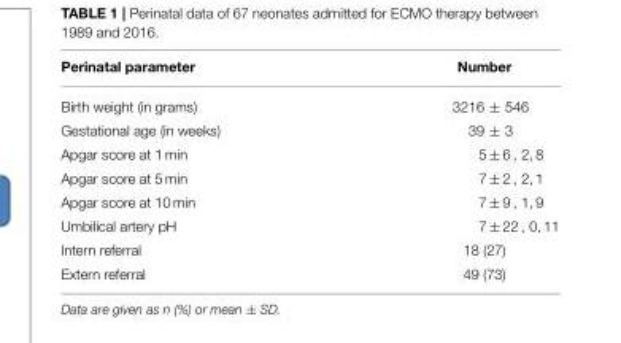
<table><thead><tr><td>Perinatal parameter</td><td>Number</td></tr></thead><tbody><tr><td>Birth weight (in grams)</td><td>3216 ± 546</td></tr><tr><td>Gestational age (in weeks)</td><td>39 ± 3</td></tr><tr><td>Apgar score at 1 min</td><td>5 ± 6 , 2, 8</td></tr><tr><td>Apgar score at 5 min</td><td>7 ± 2 , 2, 1</td></tr><tr><td>Apgar score at 10 min</td><td>7 ± 9 , 1, 9</td></tr><tr><td>Umbilical artery pH</td><td>7 ± 22 , 0, 11</td></tr><tr><td>Intern referral</td><td>18 (27)</td></tr><tr><td>Extern referral</td><td>49 (73)</td></tr></tbody></table>